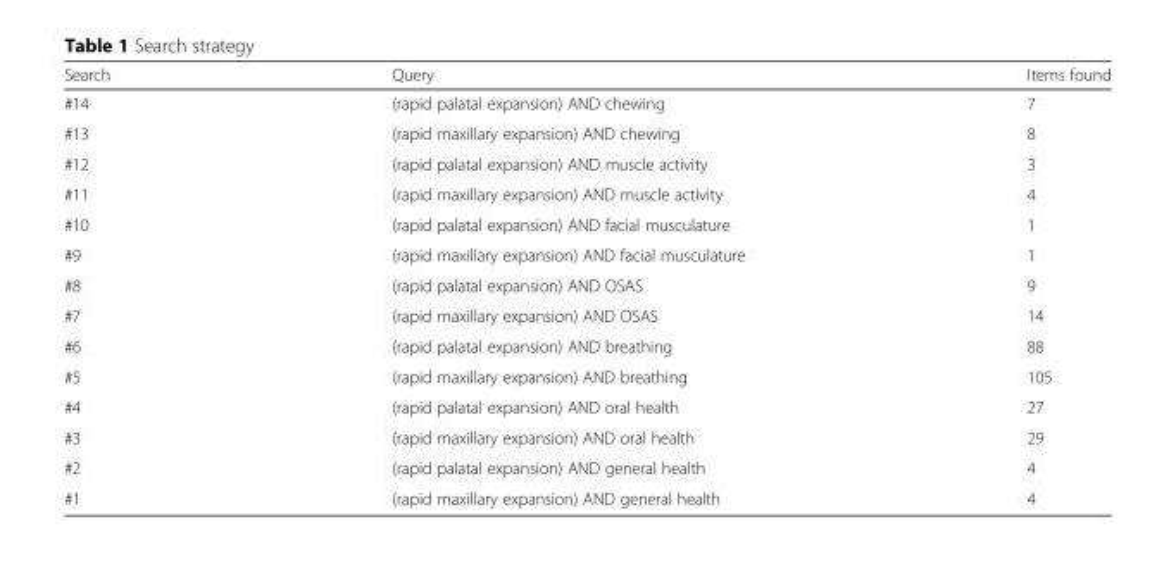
<table><thead><tr><td>Search</td><td>Query</td><td>Items found</td></tr></thead><tbody><tr><td>#14</td><td>(rapid palatal expansion) AND chewing</td><td>7</td></tr><tr><td>#13</td><td>(rapid maxillary expansion) AND chewing</td><td>8</td></tr><tr><td>#12</td><td>(rapid palatal expansion) AND muscle activity</td><td>3</td></tr><tr><td>#11</td><td>(rapid maxillary expansion) AND muscle activity</td><td>4</td></tr><tr><td>#10</td><td>(rapid palatal expansion) AND facial musculature</td><td>1</td></tr><tr><td>#9</td><td>(rapid maxillary expansion) AND facial musculature</td><td>1</td></tr><tr><td>#8</td><td>(rapid palatal expansion) AND OSAS</td><td>9</td></tr><tr><td>#7</td><td>(rapid maxillary expansion) AND OSAS</td><td>14</td></tr><tr><td>#6</td><td>(rapid palatal expansion) AND breathing</td><td>88</td></tr><tr><td>#5</td><td>(rapid maxillary expansion) AND breathing</td><td>105</td></tr><tr><td>#4</td><td>(rapid palatal expansion) AND oral health</td><td>27</td></tr><tr><td>#3</td><td>(rapid maxillary expansion) AND oral health</td><td>29</td></tr><tr><td>#2</td><td>(rapid palatal expansion) AND general health</td><td>4</td></tr><tr><td>#1</td><td>(rapid maxillary expansion) AND general health</td><td>4</td></tr></tbody></table>